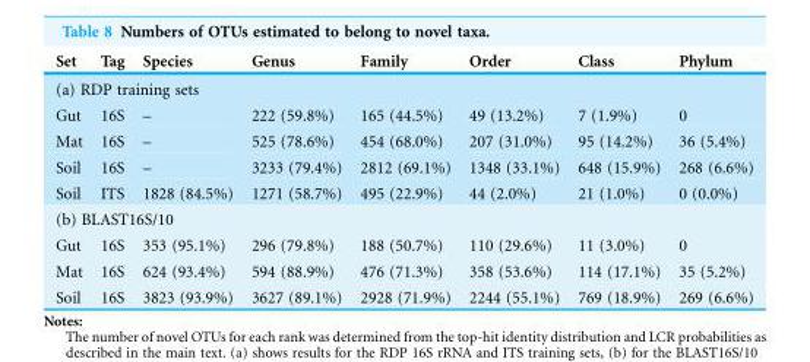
<table><thead><tr><td>Set</td><td>Tag</td><td>Species</td><td>Genus</td><td>Family</td><td>Order</td><td>Class</td><td>Phylum</td></tr></thead><tbody><tr><td colspan="8">(a) RDP training sets</td></tr><tr><td>Gut</td><td>16S</td><td>–</td><td>222 (59.8%)</td><td>165 (44.5%)</td><td>49 (13.2%)</td><td>7 (1.9%)</td><td>0</td></tr><tr><td>Mat</td><td>16S</td><td>–</td><td>525 (78.6%)</td><td>454 (68.0%)</td><td>207 (31.0%)</td><td>95 (14.2%)</td><td>36 (5.4%)</td></tr><tr><td>Soil</td><td>16S</td><td>–</td><td>3233 (79.4%)</td><td>2812 (69.1%)</td><td>1348 (33.1%)</td><td>648 (15.9%)</td><td>268 (6.6%)</td></tr><tr><td>Soil</td><td>ITS</td><td>1828 (84.5%)</td><td>1271 (58.7%)</td><td>495 (22.9%)</td><td>44 (2.0%)</td><td>21 (1.0%)</td><td>0 (0.0%)</td></tr><tr><td colspan="8">(b) BLAST16S/10</td></tr><tr><td>Gut</td><td>16S</td><td>353 (95.1%)</td><td>296 (79.8%)</td><td>188 (50.7%)</td><td>110 (29.6%)</td><td>11 (3.0%)</td><td>0</td></tr><tr><td>Mat</td><td>16S</td><td>624 (93.4%)</td><td>594 (88.9%)</td><td>476 (71.3%)</td><td>358 (53.6%)</td><td>114 (17.1%)</td><td>35 (5.2%)</td></tr><tr><td>Soil</td><td>16S</td><td>3823 (93.9%)</td><td>3627 (89.1%)</td><td>2928 (71.9%)</td><td>2244 (55.1%)</td><td>769 (18.9%)</td><td>269 (6.6%)</td></tr></tbody></table>